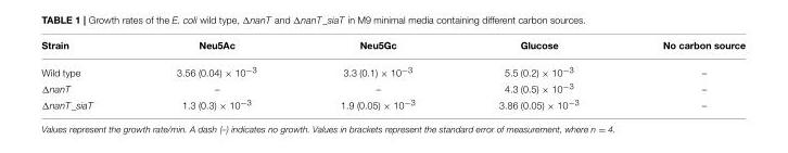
<table><thead><tr><td>Strain</td><td>Neu5Ac</td><td>Neu5Gc</td><td>Glucose</td><td>No carbon source</td></tr></thead><tbody><tr><td>Wild type</td><td>3.56 (0.04) × 10<sup>−3</sup></td><td>3.3 (0.1) × 10<sup>−3</sup></td><td>5.5 (0.2) × 10<sup>−3</sup></td><td>–</td></tr><tr><td>ΔnanT</td><td>–</td><td>–</td><td>4.3 (0.5) × 10<sup>−3</sup></td><td>–</td></tr><tr><td>ΔnanT_siaT</td><td>1.3 (0.3) × 10<sup>−3</sup></td><td>1.9 (0.05) × 10<sup>−3</sup></td><td>3.86 (0.05) × 10<sup>−3</sup></td><td>–</td></tr></tbody></table>